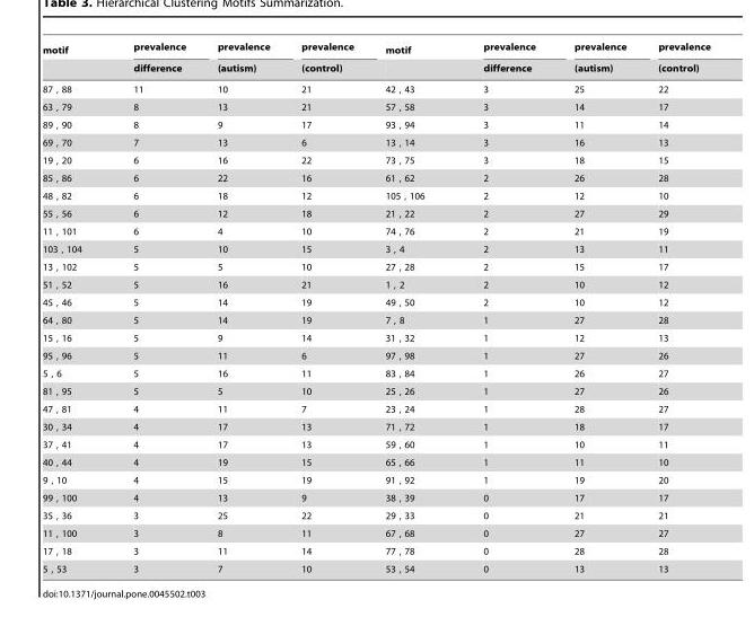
<table><thead><tr><td rowspan="2">motif</td><td rowspan="2">prevalence difference</td><td rowspan="2">prevalence (autism)</td><td rowspan="2">prevalence (control)</td><td rowspan="2">motif</td><td rowspan="2">prevalence difference</td><td rowspan="2">prevalence (autism)</td><td rowspan="2">prevalence (control)</td></tr><tr></tr></thead><tbody><tr><td>87 , 88</td><td>11</td><td>10</td><td>21</td><td>42 , 43</td><td>3</td><td>25</td><td>22</td></tr><tr><td>63 , 79</td><td>8</td><td>13</td><td>21</td><td>57 , 58</td><td>3</td><td>14</td><td>17</td></tr><tr><td>89 , 90</td><td>8</td><td>9</td><td>17</td><td>93 , 94</td><td>3</td><td>11</td><td>14</td></tr><tr><td>69 , 70</td><td>7</td><td>13</td><td>6</td><td>13 , 14</td><td>3</td><td>16</td><td>13</td></tr><tr><td>19 , 20</td><td>6</td><td>16</td><td>22</td><td>73 , 75</td><td>3</td><td>18</td><td>15</td></tr><tr><td>85 , 86</td><td>6</td><td>22</td><td>16</td><td>61 , 62</td><td>2</td><td>26</td><td>28</td></tr><tr><td>48 , 82</td><td>6</td><td>18</td><td>12</td><td>105 , 106</td><td>2</td><td>12</td><td>10</td></tr><tr><td>55 , 56</td><td>6</td><td>12</td><td>18</td><td>21 , 22</td><td>2</td><td>27</td><td>29</td></tr><tr><td>11 , 101</td><td>6</td><td>4</td><td>10</td><td>74 , 76</td><td>2</td><td>21</td><td>19</td></tr><tr><td>103 , 104</td><td>5</td><td>10</td><td>15</td><td>3 , 4</td><td>2</td><td>13</td><td>11</td></tr><tr><td>13 , 102</td><td>5</td><td>5</td><td>10</td><td>27 , 28</td><td>2</td><td>15</td><td>17</td></tr><tr><td>51 , 52</td><td>5</td><td>16</td><td>21</td><td>1 , 2</td><td>2</td><td>10</td><td>12</td></tr><tr><td>45 , 46</td><td>5</td><td>14</td><td>19</td><td>49 , 50</td><td>2</td><td>10</td><td>12</td></tr><tr><td>64 , 80</td><td>5</td><td>14</td><td>19</td><td>7 , 8</td><td>1</td><td>27</td><td>28</td></tr><tr><td>15 , 16</td><td>5</td><td>9</td><td>14</td><td>31 , 32</td><td>1</td><td>12</td><td>13</td></tr><tr><td>95 , 96</td><td>5</td><td>11</td><td>6</td><td>97 , 98</td><td>1</td><td>27</td><td>26</td></tr><tr><td>5 , 6</td><td>5</td><td>16</td><td>11</td><td>83 , 84</td><td>1</td><td>26</td><td>27</td></tr><tr><td>81 , 95</td><td>5</td><td>5</td><td>10</td><td>25 , 26</td><td>1</td><td>27</td><td>26</td></tr><tr><td>47 , 81</td><td>4</td><td>11</td><td>7</td><td>23 , 24</td><td>1</td><td>28</td><td>27</td></tr><tr><td>30 , 34</td><td>4</td><td>17</td><td>13</td><td>71 , 72</td><td>1</td><td>18</td><td>17</td></tr><tr><td>37 , 41</td><td>4</td><td>17</td><td>13</td><td>59 , 60</td><td>1</td><td>10</td><td>11</td></tr><tr><td>40 , 44</td><td>4</td><td>19</td><td>15</td><td>65 , 66</td><td>1</td><td>11</td><td>10</td></tr><tr><td>9 , 10</td><td>4</td><td>15</td><td>19</td><td>91 , 92</td><td>1</td><td>19</td><td>20</td></tr><tr><td>99 , 100</td><td>4</td><td>13</td><td>9</td><td>38 , 39</td><td>0</td><td>17</td><td>17</td></tr><tr><td>35 , 36</td><td>3</td><td>25</td><td>22</td><td>29 , 33</td><td>0</td><td>21</td><td>21</td></tr><tr><td>11 , 100</td><td>3</td><td>8</td><td>11</td><td>67 , 68</td><td>0</td><td>27</td><td>27</td></tr><tr><td>17 , 18</td><td>3</td><td>11</td><td>14</td><td>77 , 78</td><td>0</td><td>28</td><td>28</td></tr><tr><td>5 , 53</td><td>3</td><td>7</td><td>10</td><td>53 , 54</td><td>0</td><td>13</td><td>13</td></tr></tbody></table>